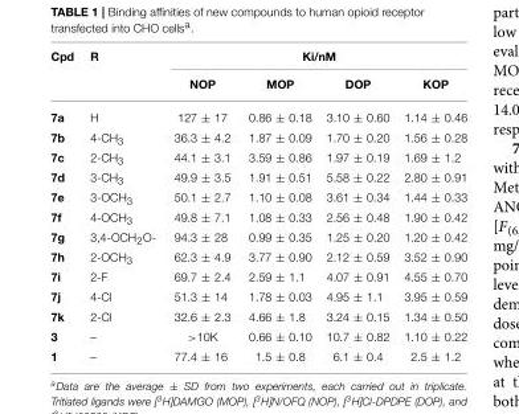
<table><thead><tr><td rowspan="2">Cpd</td><td rowspan="2">R</td><td colspan="4">Ki/nM</td></tr><tr><td>NOP</td><td>MOP</td><td>DOP</td><td>KOP</td></tr></thead><tbody><tr><td>7a</td><td>H</td><td>127 ± 17</td><td>0.86 ± 0.18</td><td>3.10 ± 0.60</td><td>1.14 ± 0.46</td></tr><tr><td>7b</td><td>4-CH<sub>3</sub></td><td>36.3 ± 4.2</td><td>1.87 ± 0.09</td><td>1.70 ± 0.20</td><td>1.56 ± 0.28</td></tr><tr><td>7c</td><td>2-CH<sub>3</sub></td><td>44.1 ± 3.1</td><td>3.59 ± 0.86</td><td>1.97 ± 0.19</td><td>1.69 ± 1.2</td></tr><tr><td>7d</td><td>3-CH<sub>3</sub></td><td>49.9 ± 3.5</td><td>1.91 ± 0.51</td><td>5.58 ± 0.22</td><td>2.80 ± 0.91</td></tr><tr><td>7e</td><td>3-OCH<sub>3</sub></td><td>50.1 ± 2.7</td><td>1.10 ± 0.08</td><td>3.61 ± 0.34</td><td>1.44 ± 0.33</td></tr><tr><td>7f</td><td>4-OCH<sub>3</sub></td><td>49.8 ± 7.1</td><td>1.08 ± 0.33</td><td>2.56 ± 0.48</td><td>1.90 ± 0.42</td></tr><tr><td>7g</td><td>3,4-OCH<sub>2</sub>O-</td><td>94.3 ± 28</td><td>0.99 ± 0.35</td><td>1.25 ± 0.20</td><td>1.20 ± 0.42</td></tr><tr><td>7h</td><td>2-OCH<sub>3</sub></td><td>62.3 ± 4.9</td><td>3.77 ± 0.90</td><td>2.12 ± 0.59</td><td>3.52 ± 0.90</td></tr><tr><td>7i</td><td>2-F</td><td>69.7 ± 2.4</td><td>2.59 ± 1.1</td><td>4.07 ± 0.91</td><td>4.55 ± 0.70</td></tr><tr><td>7j</td><td>4-Cl</td><td>51.3 ± 14</td><td>1.78 ± 0.03</td><td>4.95 ± 1.1</td><td>3.95 ± 0.59</td></tr><tr><td>7k</td><td>2-Cl</td><td>32.6 ± 2.3</td><td>4.66 ± 1.8</td><td>3.24 ± 0.15</td><td>1.34 ± 0.50</td></tr><tr><td>3</td><td>–</td><td>&gt;10K</td><td>0.66 ± 0.10</td><td>10.7 ± 0.82</td><td>1.10 ± 0.22</td></tr><tr><td>1</td><td>–</td><td>77.4 ± 16</td><td>1.5 ± 0.8</td><td>6.1 ± 0.4</td><td>2.5 ± 1.2</td></tr></tbody></table>